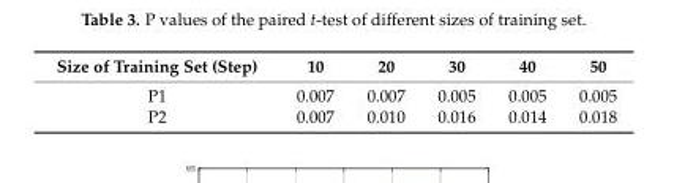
<table><thead><tr><td>Size of Training Set (Step)</td><td>10</td><td>20</td><td>30</td><td>40</td><td>50</td></tr></thead><tbody><tr><td>P1</td><td>0.007</td><td>0.007</td><td>0.005</td><td>0.005</td><td>0.005</td></tr><tr><td>P2</td><td>0.007</td><td>0.010</td><td>0.016</td><td>0.014</td><td>0.018</td></tr></tbody></table>